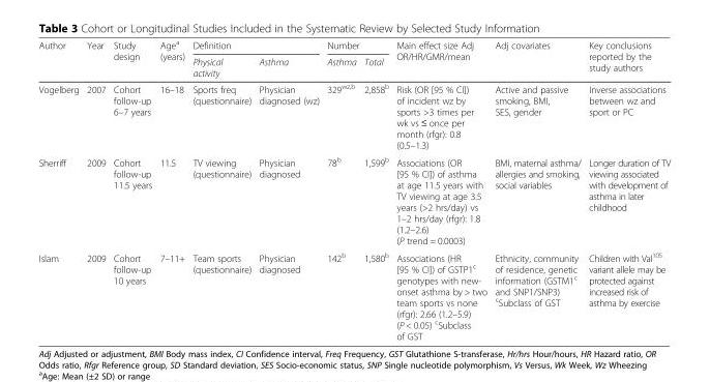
<table><thead><tr><td rowspan="2">Author</td><td rowspan="2">Year</td><td rowspan="2">Study design</td><td rowspan="2">Age<sup>a</sup> (years)</td><td colspan="2">Definition</td><td colspan="2">Number</td><td rowspan="2">Main effect size Adj OR/HR/GMR/mean</td><td rowspan="2">Adj covariates</td><td rowspan="2">Key conclusions reported by the study authors</td></tr><tr><td>Physical activity</td><td>Asthma</td><td>Asthma</td><td>Total</td></tr></thead><tbody><tr><td>Vogelberg</td><td>2007</td><td>Cohort follow-up 6–7 years</td><td>16–18</td><td>Sports freq (questionnaire)</td><td>Physician diagnosed (wz)</td><td>329<sup>wz,b</sup></td><td>2,858<sup>b</sup></td><td>Risk (OR [95 % CI]) of incident wz by sports &gt;3 times per wk vs ≤ once per month (rfgr): 0.8 (0.5–1.3)</td><td>Active and passive smoking, BMI, SES, gender</td><td>Inverse associations between wz and sport or PC</td></tr><tr><td>Sherriff</td><td>2009</td><td>Cohort follow-up 11.5 years</td><td>11.5</td><td>TV viewing (questionnaire)</td><td>Physician diagnosed</td><td>78<sup>b</sup></td><td>1,599<sup>b</sup></td><td>Associations (OR [95 % CI]) of asthma at age 11.5 years with TV viewing at age 3.5 years (&gt;2 hrs/day) vs 1–2 hrs/day (rfgr): 1.8 (1.2–2.6) (P trend = 0.0003)</td><td>BMI, maternal asthma/ allergies and smoking, social variables</td><td>Longer duration of TV viewing associated with development of asthma in later childhood</td></tr><tr><td>Islam</td><td>2009</td><td>Cohort follow-up 10 years</td><td>7–11+</td><td>Team sports (questionnaire)</td><td>Physician diagnosed</td><td>142<sup>b</sup></td><td>1,580<sup>b</sup></td><td>Associations (HR [95 % CI]) of GSTP1<sup>c</sup> genotypes with new- onset asthma by &gt; two team sports vs none (rfgr): 2.66 (1.2–5.9) (P &lt; 0.05) <sup>c</sup>Subclass of GST</td><td>Ethnicity, community of residence, genetic information (GSTM1<sup>c</sup> and SNP1/SNP3) <sup>c</sup>Subclass of GST</td><td>Children with Val<sup>105</sup> variant allele may be protected against increased risk of asthma by exercise</td></tr></tbody></table>